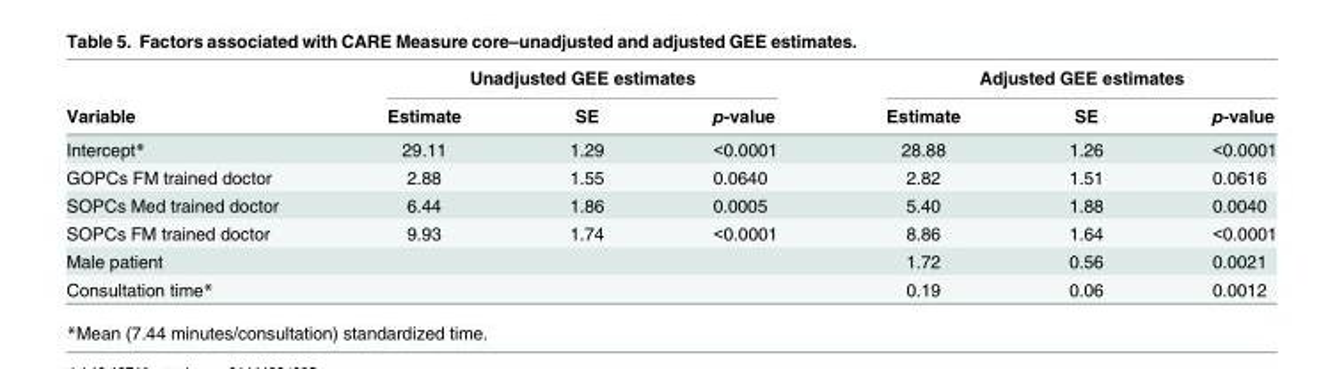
<table><thead><tr><td rowspan="2">Variable</td><td colspan="3">Unadjusted GEE estimates</td><td colspan="3">Adjusted GEE estimates</td></tr><tr><td>Estimate</td><td>SE</td><td>p-value</td><td>Estimate</td><td>SE</td><td>p-value</td></tr></thead><tbody><tr><td>Intercept*</td><td>29.11</td><td>1.29</td><td>&lt;0.0001</td><td>28.88</td><td>1.26</td><td>&lt;0.0001</td></tr><tr><td>GOPCs FM trained doctor</td><td>2.88</td><td>1.55</td><td>0.0640</td><td>2.82</td><td>1.51</td><td>0.0616</td></tr><tr><td>SOPCs Med trained doctor</td><td>6.44</td><td>1.86</td><td>0.0005</td><td>5.40</td><td>1.88</td><td>0.0040</td></tr><tr><td>SOPCs FM trained doctor</td><td>9.93</td><td>1.74</td><td>&lt;0.0001</td><td>8.86</td><td>1.64</td><td>&lt;0.0001</td></tr><tr><td>Male patient</td><td></td><td></td><td></td><td>1.72</td><td>0.56</td><td>0.0021</td></tr><tr><td>Consultation time*</td><td></td><td></td><td></td><td>0.19</td><td>0.06</td><td>0.0012</td></tr></tbody></table>